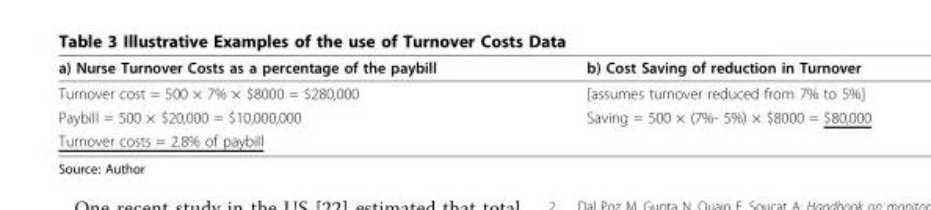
<table><thead><tr><td>a) Nurse Turnover Costs as a percentage of the paybill</td><td>b) Cost Saving of reduction in Turnover</td></tr></thead><tbody><tr><td>Turnover cost = 500 × 7% × $8000 = $280,000</td><td>[assumes turnover reduced from 7% to 5%]</td></tr><tr><td>Paybill = 500 × $20,000 = $10,000,000</td><td>Saving = 500 × (7%- 5%) × $8000 = $80,000</td></tr><tr><td>Turnover costs = 2.8% of paybill</td><td></td></tr></tbody></table>